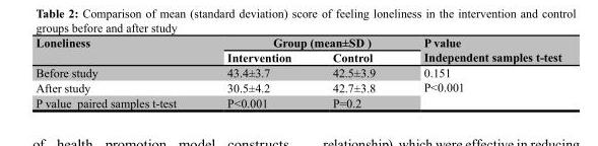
<table><thead><tr><td rowspan="2">Loneliness</td><td colspan="2">Group (mean±SD )</td><td rowspan="2">P value Independent samples t-test</td></tr><tr><td>Intervention</td><td>Control</td></tr></thead><tbody><tr><td>Before study</td><td>43.4±3.7</td><td>42.5±3.9</td><td rowspan="3">0.151 P&lt;0.001</td></tr><tr><td>After study</td><td>30.5±4.2</td><td>42.7±3.8</td></tr><tr><td>P value paired samples t-test</td><td>P&lt;0.001</td><td>P=0.2</td></tr></tbody></table>